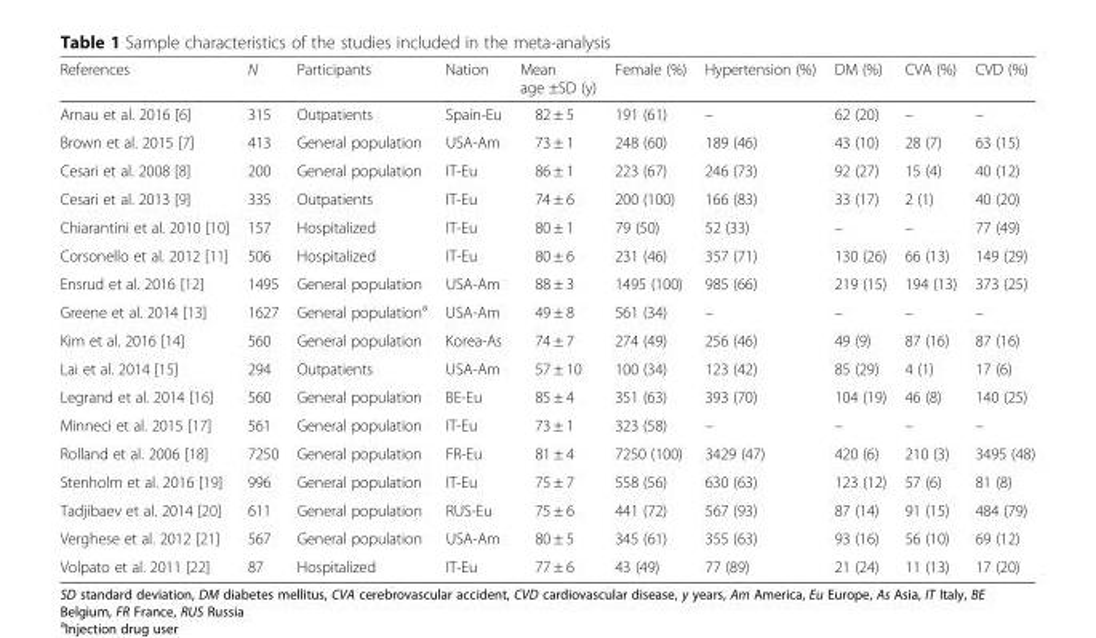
<table><thead><tr><td>References</td><td>N</td><td>Participants</td><td>Nation</td><td>Mean age ±SD (y)</td><td>Female (%)</td><td>Hypertension (%)</td><td>DM (%)</td><td>CVA (%)</td><td>CVD (%)</td></tr></thead><tbody><tr><td>Arnau et al. 2016 [6]</td><td>315</td><td>Outpatients</td><td>Spain-Eu</td><td>82 ± 5</td><td>191 (61)</td><td>–</td><td>62 (20)</td><td>–</td><td>–</td></tr><tr><td>Brown et al. 2015 [7]</td><td>413</td><td>General population</td><td>USA-Am</td><td>73 ± 1</td><td>248 (60)</td><td>189 (46)</td><td>43 (10)</td><td>28 (7)</td><td>63 (15)</td></tr><tr><td>Cesari et al. 2008 [8]</td><td>200</td><td>General population</td><td>IT-Eu</td><td>86 ± 1</td><td>223 (67)</td><td>246 (73)</td><td>92 (27)</td><td>15 (4)</td><td>40 (12)</td></tr><tr><td>Cesari et al. 2013 [9]</td><td>335</td><td>Outpatients</td><td>IT-Eu</td><td>74 ± 6</td><td>200 (100)</td><td>166 (83)</td><td>33 (17)</td><td>2 (1)</td><td>40 (20)</td></tr><tr><td>Chiarantini et al. 2010 [10]</td><td>157</td><td>Hospitalized</td><td>IT-Eu</td><td>80 ± 1</td><td>79 (50)</td><td>52 (33)</td><td>–</td><td>–</td><td>77 (49)</td></tr><tr><td>Corsonello et al. 2012 [11]</td><td>506</td><td>Hospitalized</td><td>IT-Eu</td><td>80 ± 6</td><td>231 (46)</td><td>357 (71)</td><td>130 (26)</td><td>66 (13)</td><td>149 (29)</td></tr><tr><td>Ensrud et al. 2016 [12]</td><td>1495</td><td>General population</td><td>USA-Am</td><td>88 ± 3</td><td>1495 (100)</td><td>985 (66)</td><td>219 (15)</td><td>194 (13)</td><td>373 (25)</td></tr><tr><td>Greene et al. 2014 [13]</td><td>1627</td><td>General population<sup>a</sup></td><td>USA-Am</td><td>49 ± 8</td><td>561 (34)</td><td>–</td><td>–</td><td>–</td><td>–</td></tr><tr><td>Kim et al. 2016 [14]</td><td>560</td><td>General population</td><td>Korea-As</td><td>74 ± 7</td><td>274 (49)</td><td>256 (46)</td><td>49 (9)</td><td>87 (16)</td><td>87 (16)</td></tr><tr><td>Lai et al. 2014 [15]</td><td>294</td><td>Outpatients</td><td>USA-Am</td><td>57 ± 10</td><td>100 (34)</td><td>123 (42)</td><td>85 (29)</td><td>4 (1)</td><td>17 (6)</td></tr><tr><td>Legrand et al. 2014 [16]</td><td>560</td><td>General population</td><td>BE-Eu</td><td>85 ± 4</td><td>351 (63)</td><td>393 (70)</td><td>104 (19)</td><td>46 (8)</td><td>140 (25)</td></tr><tr><td>Minneci et al. 2015 [17]</td><td>561</td><td>General population</td><td>IT-Eu</td><td>73 ± 1</td><td>323 (58)</td><td>–</td><td>–</td><td>–</td><td>–</td></tr><tr><td>Rolland et al. 2006 [18]</td><td>7250</td><td>General population</td><td>FR-Eu</td><td>81 ± 4</td><td>7250 (100)</td><td>3429 (47)</td><td>420 (6)</td><td>210 (3)</td><td>3495 (48)</td></tr><tr><td>Stenholm et al. 2016 [19]</td><td>996</td><td>General population</td><td>IT-Eu</td><td>75 ± 7</td><td>558 (56)</td><td>630 (63)</td><td>123 (12)</td><td>57 (6)</td><td>81 (8)</td></tr><tr><td>Tadjibaev et al. 2014 [20]</td><td>611</td><td>General population</td><td>RUS-Eu</td><td>75 ± 6</td><td>441 (72)</td><td>567 (93)</td><td>87 (14)</td><td>91 (15)</td><td>484 (79)</td></tr><tr><td>Verghese et al. 2012 [21]</td><td>567</td><td>General population</td><td>USA-Am</td><td>80 ± 5</td><td>345 (61)</td><td>355 (63)</td><td>93 (16)</td><td>56 (10)</td><td>69 (12)</td></tr><tr><td>Volpato et al. 2011 [22]</td><td>87</td><td>Hospitalized</td><td>IT-Eu</td><td>77 ± 6</td><td>43 (49)</td><td>77 (89)</td><td>21 (24)</td><td>11 (13)</td><td>17 (20)</td></tr></tbody></table>